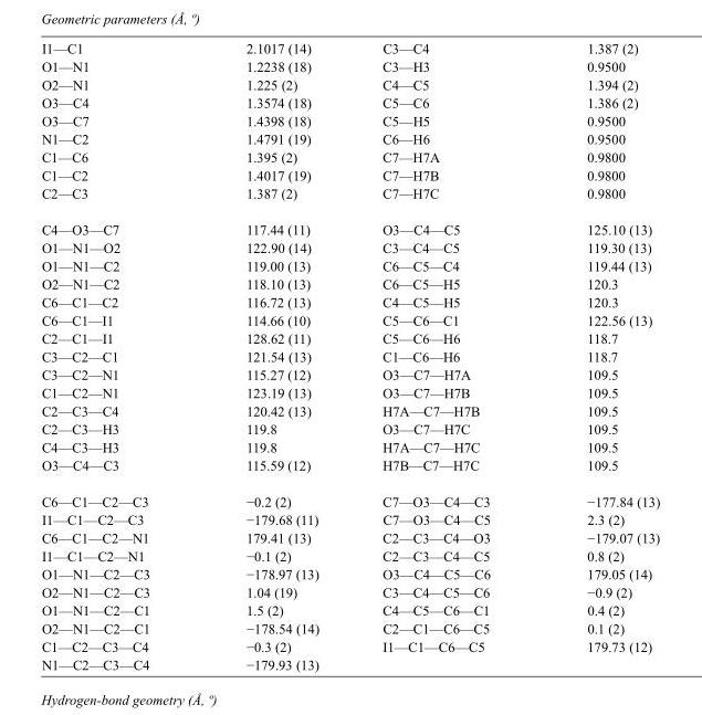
<table><tbody><tr><td>I1—C1</td><td>2.1017 (14)</td><td>C3—C4</td><td>1.387 (2)</td></tr><tr><td>O1—N1</td><td>1.2238 (18)</td><td>C3—H3</td><td>0.9500</td></tr><tr><td>O2—N1</td><td>1.225 (2)</td><td>C4—C5</td><td>1.394 (2)</td></tr><tr><td>O3—C4</td><td>1.3574 (18)</td><td>C5—C6</td><td>1.386 (2)</td></tr><tr><td>O3—C7</td><td>1.4398 (18)</td><td>C5—H5</td><td>0.9500</td></tr><tr><td>N1—C2</td><td>1.4791 (19)</td><td>C6—H6</td><td>0.9500</td></tr><tr><td>C1—C6</td><td>1.395 (2)</td><td>C7—H7A</td><td>0.9800</td></tr><tr><td>C1—C2</td><td>1.4017 (19)</td><td>C7—H7B</td><td>0.9800</td></tr><tr><td>C2—C3</td><td>1.387 (2)</td><td>C7—H7C</td><td>0.9800</td></tr><tr><td>C4—O3—C7</td><td>117.44 (11)</td><td>O3—C4—C5</td><td>125.10 (13)</td></tr><tr><td>O1—N1—O2</td><td>122.90 (14)</td><td>C3—C4—C5</td><td>119.30 (13)</td></tr><tr><td>O1—N1—C2</td><td>119.00 (13)</td><td>C6—C5—C4</td><td>119.44 (13)</td></tr><tr><td>O2—N1—C2</td><td>118.10 (13)</td><td>C6—C5—H5</td><td>120.3</td></tr><tr><td>C6—C1—C2</td><td>116.72 (13)</td><td>C4—C5—H5</td><td>120.3</td></tr><tr><td>C6—C1—I1</td><td>114.66 (10)</td><td>C5—C6—C1</td><td>122.56 (13)</td></tr><tr><td>C2—C1—I1</td><td>128.62 (11)</td><td>C5—C6—H6</td><td>118.7</td></tr><tr><td>C3—C2—C1</td><td>121.54 (13)</td><td>C1—C6—H6</td><td>118.7</td></tr><tr><td>C3—C2—N1</td><td>115.27 (12)</td><td>O3—C7—H7A</td><td>109.5</td></tr><tr><td>C1—C2—N1</td><td>123.19 (13)</td><td>O3—C7—H7B</td><td>109.5</td></tr><tr><td>C2—C3—C4</td><td>120.42 (13)</td><td>H7A—C7—H7B</td><td>109.5</td></tr><tr><td>C2—C3—H3</td><td>119.8</td><td>O3—C7—H7C</td><td>109.5</td></tr><tr><td>C4—C3—H3</td><td>119.8</td><td>H7A—C7—H7C</td><td>109.5</td></tr><tr><td>O3—C4—C3</td><td>115.59 (12)</td><td>H7B—C7—H7C</td><td>109.5</td></tr><tr><td>C6—C1—C2—C3</td><td>−0.2 (2)</td><td>C7—O3—C4—C3</td><td>−177.84 (13)</td></tr><tr><td>I1—C1—C2—C3</td><td>−179.68 (11)</td><td>C7—O3—C4—C5</td><td>2.3 (2)</td></tr><tr><td>C6—C1—C2—N1</td><td>179.41 (13)</td><td>C2—C3—C4—O3</td><td>−179.07 (13)</td></tr><tr><td>I1—C1—C2—N1</td><td>−0.1 (2)</td><td>C2—C3—C4—C5</td><td>0.8 (2)</td></tr><tr><td>O1—N1—C2—C3</td><td>−178.97 (13)</td><td>O3—C4—C5—C6</td><td>179.05 (14)</td></tr><tr><td>O2—N1—C2—C3</td><td>1.04 (19)</td><td>C3—C4—C5—C6</td><td>−0.9 (2)</td></tr><tr><td>O1—N1—C2—C1</td><td>1.5 (2)</td><td>C4—C5—C6—C1</td><td>0.4 (2)</td></tr><tr><td>O2—N1—C2—C1</td><td>−178.54 (14)</td><td>C2—C1—C6—C5</td><td>0.1 (2)</td></tr><tr><td>C1—C2—C3—C4</td><td>−0.3 (2)</td><td>I1—C1—C6—C5</td><td>179.73 (12)</td></tr><tr><td>N1—C2—C3—C4</td><td>−179.93 (13)</td><td></td><td></td></tr></tbody></table>